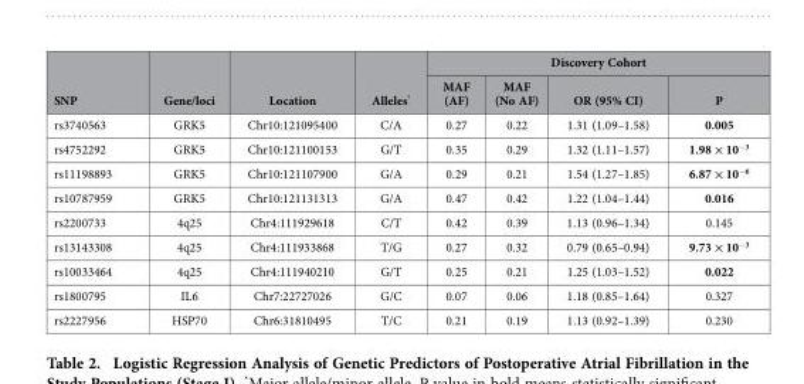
<table><thead><tr><td rowspan="2">SNP</td><td rowspan="2">Gene/loci</td><td rowspan="2">Location</td><td rowspan="2">Alleles*</td><td colspan="4">Discovery Cohort</td></tr><tr><td>MAF (AF)</td><td>MAF (No AF)</td><td>OR (95% CI)</td><td>P</td></tr></thead><tbody><tr><td>rs3740563</td><td>GRK5</td><td>Chr10:121095400</td><td>C/A</td><td>0.27</td><td>0.22</td><td>1.31 (1.09–1.58)</td><td>0.005</td></tr><tr><td>rs4752292</td><td>GRK5</td><td>Chr10:121100153</td><td>G/T</td><td>0.35</td><td>0.29</td><td>1.32 (1.11–1.57)</td><td>1.98 × 10<sup>−3</sup></td></tr><tr><td>rs11198893</td><td>GRK5</td><td>Chr10:121107900</td><td>G/A</td><td>0.29</td><td>0.21</td><td>1.54 (1.27–1.85)</td><td>6.87 × 10<sup>−6</sup></td></tr><tr><td>rs10787959</td><td>GRK5</td><td>Chr10:121131313</td><td>G/A</td><td>0.47</td><td>0.42</td><td>1.22 (1.04–1.44)</td><td>0.016</td></tr><tr><td>rs2200733</td><td>4q25</td><td>Chr4:111929618</td><td>C/T</td><td>0.42</td><td>0.39</td><td>1.13 (0.96–1.34)</td><td>0.145</td></tr><tr><td>rs13143308</td><td>4q25</td><td>Chr4:111933868</td><td>T/G</td><td>0.27</td><td>0.32</td><td>0.79 (0.65–0.94)</td><td>9.73 × 10<sup>−3</sup></td></tr><tr><td>rs10033464</td><td>4q25</td><td>Chr4:111940210</td><td>G/T</td><td>0.25</td><td>0.21</td><td>1.25 (1.03–1.52)</td><td>0.022</td></tr><tr><td>rs1800795</td><td>IL6</td><td>Chr7:22727026</td><td>G/C</td><td>0.07</td><td>0.06</td><td>1.18 (0.85–1.64)</td><td>0.327</td></tr><tr><td>rs2227956</td><td>HSP70</td><td>Chr6:31810495</td><td>T/C</td><td>0.21</td><td>0.19</td><td>1.13 (0.92–1.39)</td><td>0.230</td></tr></tbody></table>